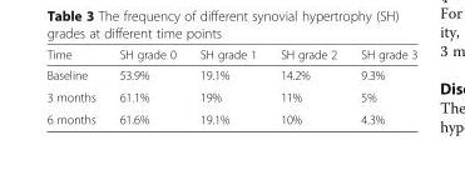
<table><thead><tr><td>Time</td><td>SH grade 0</td><td>SH grade 1</td><td>SH grade 2</td><td>SH grade 3</td></tr></thead><tbody><tr><td>Baseline</td><td>53.9%</td><td>19.1%</td><td>14.2%</td><td>9.3%</td></tr><tr><td>3 months</td><td>61.1%</td><td>19%</td><td>11%</td><td>5%</td></tr><tr><td>6 months</td><td>61.6%</td><td>19.1%</td><td>10%</td><td>4.3%</td></tr></tbody></table>